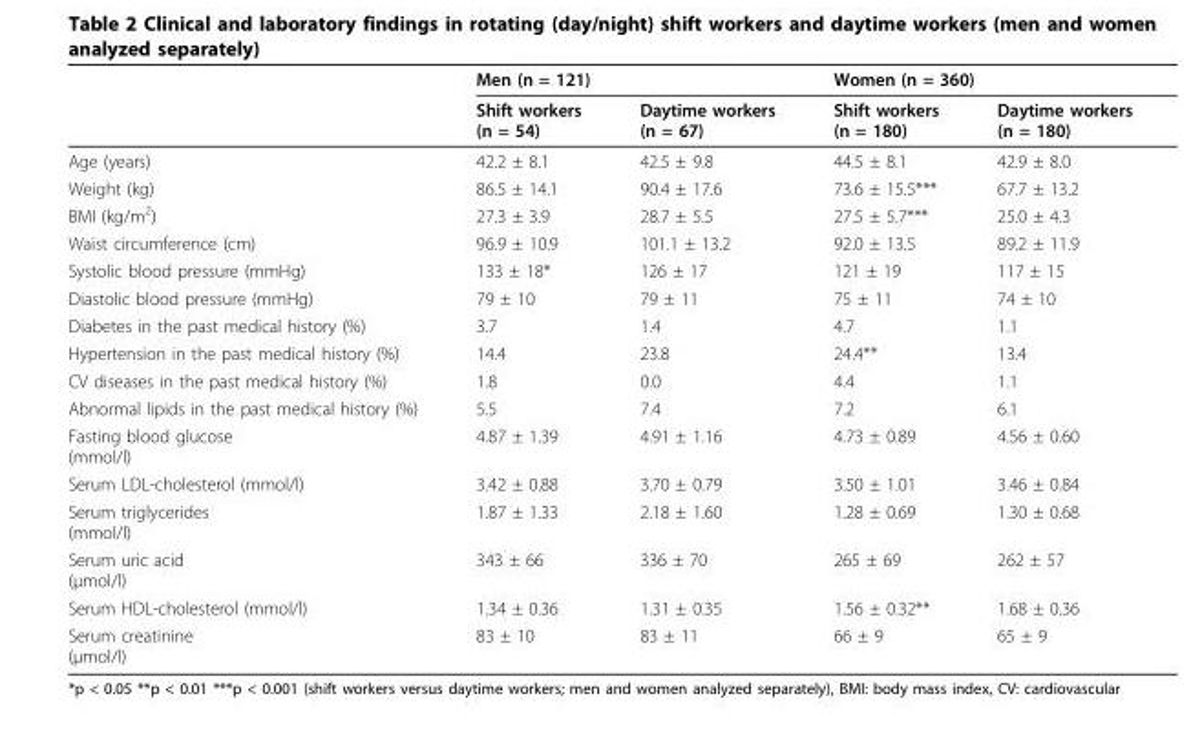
<table><thead><tr><td rowspan="2"></td><td colspan="2">Men (n = 121)</td><td colspan="2">Women (n = 360)</td></tr><tr><td>Shift workers (n = 54)</td><td>Daytime workers (n = 67)</td><td>Shift workers (n = 180)</td><td>Daytime workers (n = 180)</td></tr></thead><tbody><tr><td>Age (years)</td><td>42.2 ± 8.1</td><td>42.5 ± 9.8</td><td>44.5 ± 8.1</td><td>42.9 ± 8.0</td></tr><tr><td>Weight (kg)</td><td>86.5 ± 14.1</td><td>90.4 ± 17.6</td><td>73.6 ± 15.5***</td><td>67.7 ± 13.2</td></tr><tr><td>BMI (kg/m<sup>2</sup>)</td><td>27.3 ± 3.9</td><td>28.7 ± 5.5</td><td>27.5 ± 5.7***</td><td>25.0 ± 4.3</td></tr><tr><td>Waist circumference (cm)</td><td>96.9 ± 10.9</td><td>101.1 ± 13.2</td><td>92.0 ± 13.5</td><td>89.2 ± 11.9</td></tr><tr><td>Systolic blood pressure (mmHg)</td><td>133 ± 18*</td><td>126 ± 17</td><td>121 ± 19</td><td>117 ± 15</td></tr><tr><td>Diastolic blood pressure (mmHg)</td><td>79 ± 10</td><td>79 ± 11</td><td>75 ± 11</td><td>74 ± 10</td></tr><tr><td>Diabetes in the past medical history (%)</td><td>3.7</td><td>1.4</td><td>4.7</td><td>1.1</td></tr><tr><td>Hypertension in the past medical history (%)</td><td>14.4</td><td>23.8</td><td>24.4**</td><td>13.4</td></tr><tr><td>CV diseases in the past medical history (%)</td><td>1.8</td><td>0.0</td><td>4.4</td><td>1.1</td></tr><tr><td>Abnormal lipids in the past medical history (%)</td><td>5.5</td><td>7.4</td><td>7.2</td><td>6.1</td></tr><tr><td>Fasting blood glucose (mmol/l)</td><td>4.87 ± 1.39</td><td>4.91 ± 1.16</td><td>4.73 ± 0.89</td><td>4.56 ± 0.60</td></tr><tr><td>Serum LDL-cholesterol (mmol/l)</td><td>3.42 ± 0.88</td><td>3.70 ± 0.79</td><td>3.50 ± 1.01</td><td>3.46 ± 0.84</td></tr><tr><td>Serum triglycerides (mmol/l)</td><td>1.87 ± 1.33</td><td>2.18 ± 1.60</td><td>1.28 ± 0.69</td><td>1.30 ± 0.68</td></tr><tr><td>Serum uric acid (μmol/l)</td><td>343 ± 66</td><td>336 ± 70</td><td>265 ± 69</td><td>262 ± 57</td></tr><tr><td>Serum HDL-cholesterol (mmol/l)</td><td>1.34 ± 0.36</td><td>1.31 ± 0.35</td><td>1.56 ± 0.32**</td><td>1.68 ± 0.36</td></tr><tr><td>Serum creatinine (μmol/l)</td><td>83 ± 10</td><td>83 ± 11</td><td>66 ± 9</td><td>65 ± 9</td></tr></tbody></table>